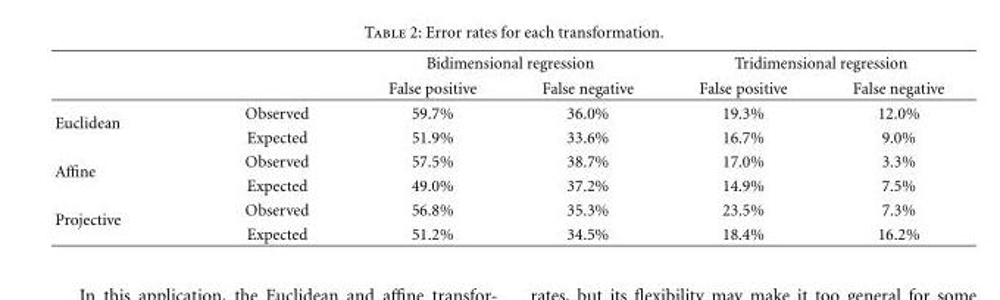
<table><thead><tr><td rowspan="2"></td><td rowspan="2"></td><td colspan="2">Bidimensional regression</td><td colspan="2">Tridimensional regression</td></tr><tr><td>False positive</td><td>False negative</td><td>False positive</td><td>False negative</td></tr></thead><tbody><tr><td rowspan="2">Euclidean</td><td>Observed</td><td>59.7%</td><td>36.0%</td><td>19.3%</td><td>12.0%</td></tr><tr><td>Expected</td><td>51.9%</td><td>33.6%</td><td>16.7%</td><td>9.0%</td></tr><tr><td rowspan="2">Affine</td><td>Observed</td><td>57.5%</td><td>38.7%</td><td>17.0%</td><td>3.3%</td></tr><tr><td>Expected</td><td>49.0%</td><td>37.2%</td><td>14.9%</td><td>7.5%</td></tr><tr><td rowspan="2">Projective</td><td>Observed</td><td>56.8%</td><td>35.3%</td><td>23.5%</td><td>7.3%</td></tr><tr><td>Expected</td><td>51.2%</td><td>34.5%</td><td>18.4%</td><td>16.2%</td></tr></tbody></table>